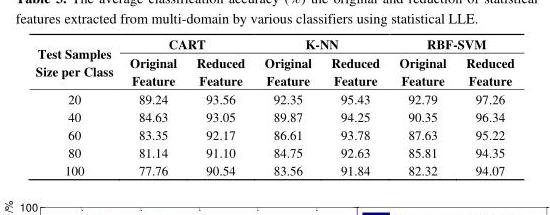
<table><thead><tr><td rowspan="2">Test Samples Size per Class</td><td colspan="2">CART</td><td colspan="2">K-NN</td><td colspan="2">RBF-SVM</td></tr><tr><td>Original Feature</td><td>Reduced Feature</td><td>Original Feature</td><td>Reduced Feature</td><td>Original Feature</td><td>Reduced Feature</td></tr></thead><tbody><tr><td>20</td><td>89.24</td><td>93.56</td><td>92.35</td><td>95.43</td><td>92.79</td><td>97.26</td></tr><tr><td>40</td><td>84.63</td><td>93.05</td><td>89.87</td><td>94.25</td><td>90.35</td><td>96.34</td></tr><tr><td>60</td><td>83.35</td><td>92.17</td><td>86.61</td><td>93.78</td><td>87.63</td><td>95.22</td></tr><tr><td>80</td><td>81.14</td><td>91.10</td><td>84.75</td><td>92.63</td><td>85.81</td><td>94.35</td></tr><tr><td>100</td><td>77.76</td><td>90.54</td><td>83.56</td><td>91.84</td><td>82.32</td><td>94.07</td></tr></tbody></table>